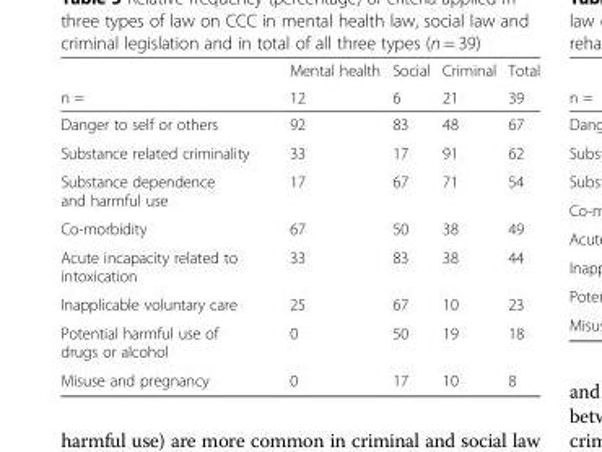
<table><thead><tr><td rowspan="2">n =</td><td rowspan="2">Mental health 12</td><td rowspan="2">Social 6</td><td rowspan="2">Criminal 21</td><td rowspan="2">Total 39</td></tr><tr></tr></thead><tbody><tr><td>Danger to self or others</td><td>92</td><td>83</td><td>48</td><td>67</td></tr><tr><td>Substance related criminality</td><td>33</td><td>17</td><td>91</td><td>62</td></tr><tr><td>Substance dependence and harmful use</td><td>17</td><td>67</td><td>71</td><td>54</td></tr><tr><td>Co-morbidity</td><td>67</td><td>50</td><td>38</td><td>49</td></tr><tr><td>Acute incapacity related to intoxication</td><td>33</td><td>83</td><td>38</td><td>44</td></tr><tr><td>Inapplicable voluntary care</td><td>25</td><td>67</td><td>10</td><td>23</td></tr><tr><td>Potential harmful use of drugs or alcohol</td><td>0</td><td>50</td><td>19</td><td>18</td></tr><tr><td>Misuse and pregnancy</td><td>0</td><td>17</td><td>10</td><td>8</td></tr></tbody></table>